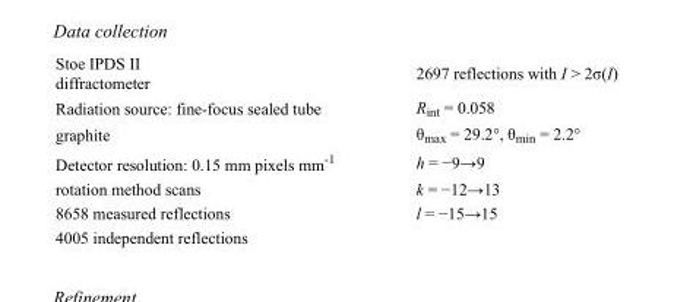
<table><tbody><tr><td>Stoe IPDS II diffractometer</td><td>2697 reflections with I &gt; 2σ(I)</td></tr><tr><td>Radiation source: fine-focus sealed tube</td><td>R<sub>int</sub> = 0.058</td></tr><tr><td>graphite</td><td>θ<sub>max</sub> = 29.2°, θ<sub>min</sub> = 2.2°</td></tr><tr><td>Detector resolution: 0.15 mm pixels mm<sup>-1</sup></td><td>h = −9→9</td></tr><tr><td>rotation method scans</td><td>k = −12→13</td></tr><tr><td>8658 measured reflections</td><td>l = −15→15</td></tr><tr><td>4005 independent reflections</td><td></td></tr></tbody></table>